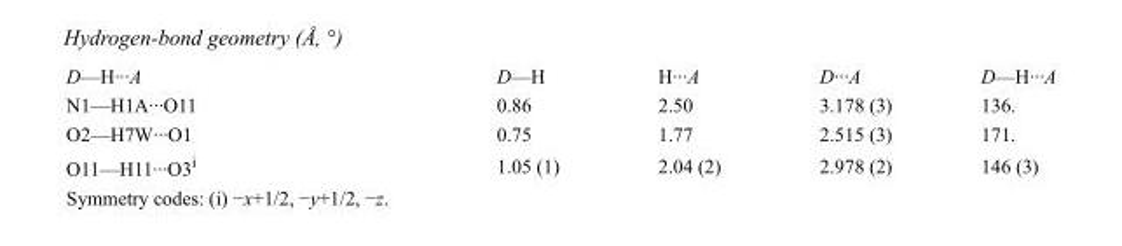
<table><tbody><tr><td>D—H···A</td><td>D—H</td><td>H···A</td><td>D···A</td><td>D—H···A</td></tr><tr><td>N1—H1A···O11</td><td>0.86</td><td>2.50</td><td>3.178 (3)</td><td>136.</td></tr><tr><td>O2—H7W···O1</td><td>0.75</td><td>1.77</td><td>2.515 (3)</td><td>171.</td></tr><tr><td>O11—H11···O3<sup>i</sup></td><td>1.05 (1)</td><td>2.04 (2)</td><td>2.978 (2)</td><td>146 (3)</td></tr></tbody></table>